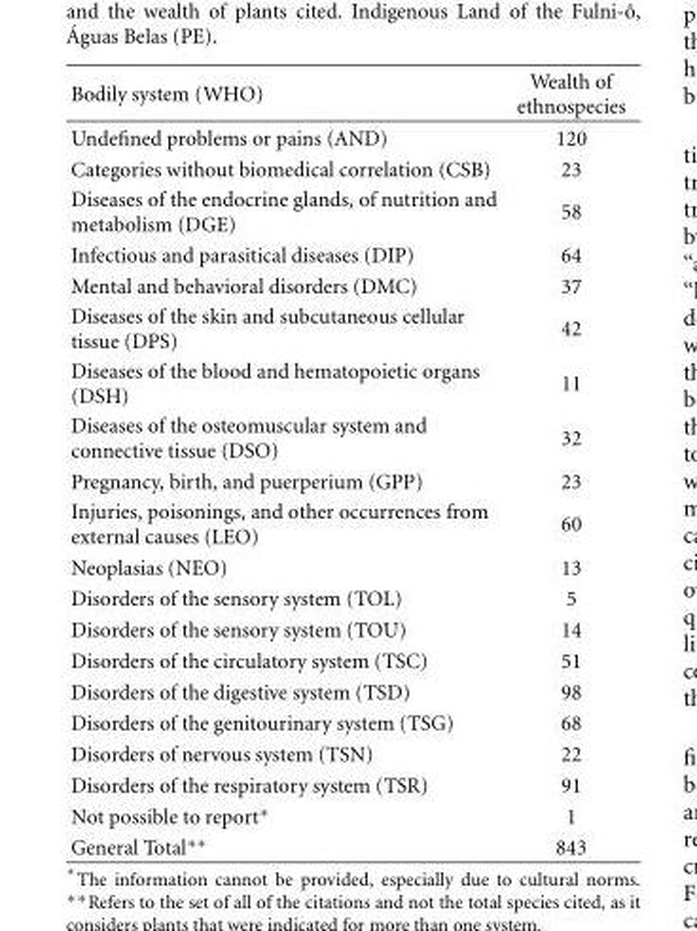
<table><thead><tr><td>Bodily system (WHO)</td><td>Wealth of ethnospecies</td></tr></thead><tbody><tr><td>Undefined problems or pains (AND)</td><td>120</td></tr><tr><td>Categories without biomedical correlation (CSB)</td><td>23</td></tr><tr><td>Diseases of the endocrine glands, of nutrition and metabolism (DGE)</td><td>58</td></tr><tr><td>Infectious and parasitical diseases (DIP)</td><td>64</td></tr><tr><td>Mental and behavioral disorders (DMC)</td><td>37</td></tr><tr><td>Diseases of the skin and subcutaneous cellular tissue (DPS)</td><td>42</td></tr><tr><td>Diseases of the blood and hematopoietic organs (DSH)</td><td>11</td></tr><tr><td>Diseases of the osteomuscular system and connective tissue (DSO)</td><td>32</td></tr><tr><td>Pregnancy, birth, and puerperium (GPP)</td><td>23</td></tr><tr><td>Injuries, poisonings, and other occurrences from external causes (LEO)</td><td>60</td></tr><tr><td>Neoplasias (NEO)</td><td>13</td></tr><tr><td>Disorders of the sensory system (TOL)</td><td>5</td></tr><tr><td>Disorders of the sensory system (TOU)</td><td>14</td></tr><tr><td>Disorders of the circulatory system (TSC)</td><td>51</td></tr><tr><td>Disorders of the digestive system (TSD)</td><td>98</td></tr><tr><td>Disorders of the genitourinary system (TSG)</td><td>68</td></tr><tr><td>Disorders of nervous system (TSN)</td><td>22</td></tr><tr><td>Disorders of the respiratory system (TSR)</td><td>91</td></tr><tr><td>Not possible to report∗</td><td>1</td></tr><tr><td>General Total∗∗</td><td>843</td></tr></tbody></table>